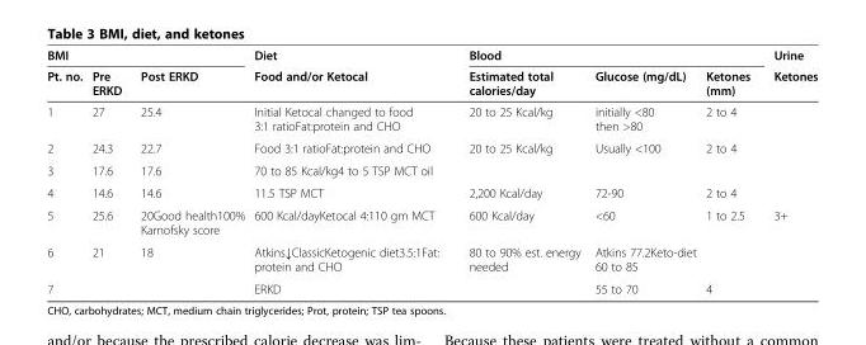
<table><thead><tr><td colspan="3">BMI</td><td rowspan="2">Diet Food and/or Ketocal</td><td colspan="3">Blood</td><td rowspan="2">Urine Ketones</td></tr><tr><td>Pt. no.</td><td>Pre ERKD</td><td>Post ERKD</td><td>Estimated total calories/day</td><td>Glucose (mg/dL)</td><td>Ketones (mm)</td></tr></thead><tbody><tr><td>1</td><td>27</td><td>25.4</td><td>Initial Ketocal changed to food 3:1 ratioFat:protein and CHO</td><td>20 to 25 Kcal/kg</td><td>initially &lt;80 then &gt;80</td><td>2 to 4</td><td></td></tr><tr><td>2</td><td>24.3</td><td>22.7</td><td>Food 3:1 ratioFat:protein and CHO</td><td>20 to 25 Kcal/kg</td><td>Usually &lt;100</td><td>2 to 4</td><td></td></tr><tr><td>3</td><td>17.6</td><td>17.6</td><td>70 to 85 Kcal/kg4 to 5 TSP MCT oil</td><td></td><td></td><td></td><td></td></tr><tr><td>4</td><td>14.6</td><td>14.6</td><td>11.5 TSP MCT</td><td>2,200 Kcal/day</td><td>72-90</td><td>2 to 4</td><td></td></tr><tr><td>5</td><td>25.6</td><td>20Good health100% Karnofsky score</td><td>600 Kcal/dayKetocal 4:110 gm MCT</td><td>600 Kcal/day</td><td>&lt;60</td><td>1 to 2.5</td><td>3+</td></tr><tr><td>6</td><td>21</td><td>18</td><td>Atkins↓ClassicKetogenic diet3.5:1Fat: protein and CHO</td><td>80 to 90% est. energy needed</td><td>Atkins 77.2Keto-diet 60 to 85</td><td></td><td></td></tr><tr><td>7</td><td></td><td></td><td>ERKD</td><td></td><td>55 to 70</td><td>4</td><td></td></tr></tbody></table>